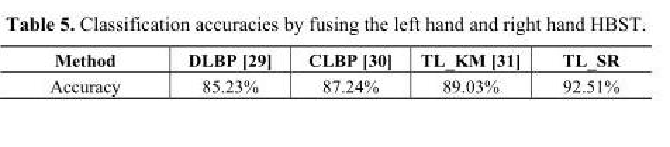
<table><thead><tr><td>Method</td><td>DLBP [29]</td><td>CLBP [30]</td><td>TL_KM [31]</td><td>TL_SR</td></tr></thead><tbody><tr><td>Accuracy</td><td>85.23%</td><td>87.24%</td><td>89.03%</td><td>92.51%</td></tr></tbody></table>